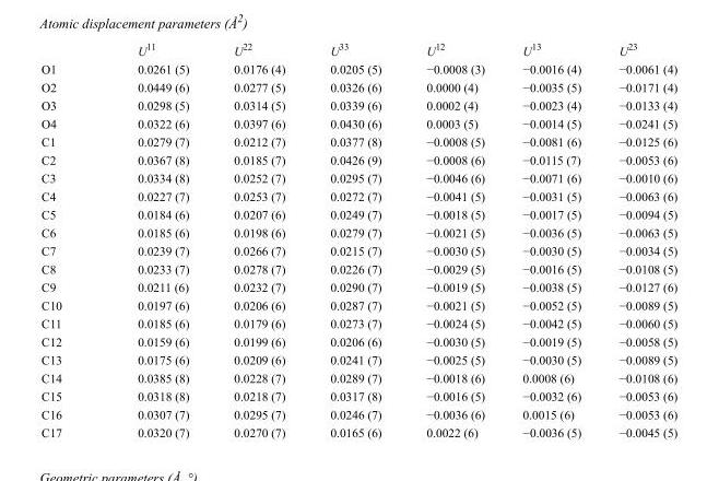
<table><thead><tr><td></td><td>U<sup>11</sup></td><td>U<sup>22</sup></td><td>U<sup>33</sup></td><td>U<sup>12</sup></td><td>U<sup>13</sup></td><td>U<sup>23</sup></td></tr></thead><tbody><tr><td>O1</td><td>0.0261 (5)</td><td>0.0176 (4)</td><td>0.0205 (5)</td><td>−0.0008 (3)</td><td>−0.0016 (4)</td><td>−0.0061 (4)</td></tr><tr><td>O2</td><td>0.0449 (6)</td><td>0.0277 (5)</td><td>0.0326 (6)</td><td>0.0000 (4)</td><td>−0.0035 (5)</td><td>−0.0171 (4)</td></tr><tr><td>O3</td><td>0.0298 (5)</td><td>0.0314 (5)</td><td>0.0339 (6)</td><td>0.0002 (4)</td><td>−0.0023 (4)</td><td>−0.0133 (4)</td></tr><tr><td>O4</td><td>0.0322 (6)</td><td>0.0397 (6)</td><td>0.0430 (6)</td><td>0.0003 (5)</td><td>−0.0014 (5)</td><td>−0.0241 (5)</td></tr><tr><td>C1</td><td>0.0279 (7)</td><td>0.0212 (7)</td><td>0.0377 (8)</td><td>−0.0008 (5)</td><td>−0.0081 (6)</td><td>−0.0125 (6)</td></tr><tr><td>C2</td><td>0.0367 (8)</td><td>0.0185 (7)</td><td>0.0426 (9)</td><td>−0.0008 (6)</td><td>−0.0115 (7)</td><td>−0.0053 (6)</td></tr><tr><td>C3</td><td>0.0334 (8)</td><td>0.0252 (7)</td><td>0.0295 (7)</td><td>−0.0046 (6)</td><td>−0.0071 (6)</td><td>−0.0010 (6)</td></tr><tr><td>C4</td><td>0.0227 (7)</td><td>0.0253 (7)</td><td>0.0272 (7)</td><td>−0.0041 (5)</td><td>−0.0031 (5)</td><td>−0.0063 (6)</td></tr><tr><td>C5</td><td>0.0184 (6)</td><td>0.0207 (6)</td><td>0.0249 (7)</td><td>−0.0018 (5)</td><td>−0.0017 (5)</td><td>−0.0094 (5)</td></tr><tr><td>C6</td><td>0.0185 (6)</td><td>0.0198 (6)</td><td>0.0279 (7)</td><td>−0.0021 (5)</td><td>−0.0036 (5)</td><td>−0.0063 (5)</td></tr><tr><td>C7</td><td>0.0239 (7)</td><td>0.0266 (7)</td><td>0.0215 (7)</td><td>−0.0030 (5)</td><td>−0.0030 (5)</td><td>−0.0034 (5)</td></tr><tr><td>C8</td><td>0.0233 (7)</td><td>0.0278 (7)</td><td>0.0226 (7)</td><td>−0.0029 (5)</td><td>−0.0016 (5)</td><td>−0.0108 (5)</td></tr><tr><td>C9</td><td>0.0211 (6)</td><td>0.0232 (7)</td><td>0.0290 (7)</td><td>−0.0019 (5)</td><td>−0.0038 (5)</td><td>−0.0127 (6)</td></tr><tr><td>C10</td><td>0.0197 (6)</td><td>0.0206 (6)</td><td>0.0287 (7)</td><td>−0.0021 (5)</td><td>−0.0052 (5)</td><td>−0.0089 (5)</td></tr><tr><td>C11</td><td>0.0185 (6)</td><td>0.0179 (6)</td><td>0.0273 (7)</td><td>−0.0024 (5)</td><td>−0.0042 (5)</td><td>−0.0060 (5)</td></tr><tr><td>C12</td><td>0.0159 (6)</td><td>0.0199 (6)</td><td>0.0206 (6)</td><td>−0.0030 (5)</td><td>−0.0019 (5)</td><td>−0.0058 (5)</td></tr><tr><td>C13</td><td>0.0175 (6)</td><td>0.0209 (6)</td><td>0.0241 (7)</td><td>−0.0025 (5)</td><td>−0.0030 (5)</td><td>−0.0089 (5)</td></tr><tr><td>C14</td><td>0.0385 (8)</td><td>0.0228 (7)</td><td>0.0289 (7)</td><td>−0.0018 (6)</td><td>0.0008 (6)</td><td>−0.0108 (6)</td></tr><tr><td>C15</td><td>0.0318 (8)</td><td>0.0218 (7)</td><td>0.0317 (8)</td><td>−0.0016 (5)</td><td>−0.0032 (6)</td><td>−0.0053 (6)</td></tr><tr><td>C16</td><td>0.0307 (7)</td><td>0.0295 (7)</td><td>0.0246 (7)</td><td>−0.0036 (6)</td><td>0.0015 (6)</td><td>−0.0053 (6)</td></tr><tr><td>C17</td><td>0.0320 (7)</td><td>0.0270 (7)</td><td>0.0165 (6)</td><td>0.0022 (6)</td><td>−0.0036 (5)</td><td>−0.0045 (5)</td></tr></tbody></table>